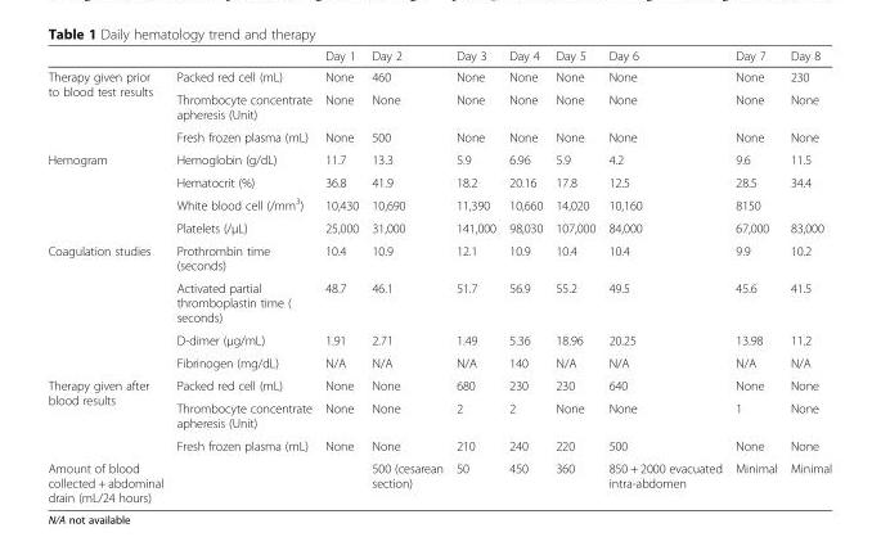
<table><thead><tr><td></td><td></td><td>Day 1</td><td>Day 2</td><td>Day 3</td><td>Day 4</td><td>Day 5</td><td>Day 6</td><td>Day 7</td><td>Day 8</td></tr></thead><tbody><tr><td rowspan="3">Therapy given prior to blood test results</td><td>Packed red cell (mL)</td><td>None</td><td>460</td><td>None</td><td>None</td><td>None</td><td>None</td><td>None</td><td>230</td></tr><tr><td>Thrombocyte concentrate apheresis (Unit)</td><td>None</td><td>None</td><td>None</td><td>None</td><td>None</td><td>None</td><td>None</td><td>None</td></tr><tr><td>Fresh frozen plasma (mL)</td><td>None</td><td>500</td><td>None</td><td>None</td><td>None</td><td>None</td><td>None</td><td>None</td></tr><tr><td rowspan="4">Hemogram</td><td>Hemoglobin (g/dL)</td><td>11.7</td><td>13.3</td><td>5.9</td><td>6.96</td><td>5.9</td><td>4.2</td><td>9.6</td><td>11.5</td></tr><tr><td>Hematocrit (%)</td><td>36.8</td><td>41.9</td><td>18.2</td><td>20.16</td><td>17.8</td><td>12.5</td><td>28.5</td><td>34.4</td></tr><tr><td>White blood cell (/mm<sup>3</sup>)</td><td>10,430</td><td>10,690</td><td>11,390</td><td>10,660</td><td>14,020</td><td>10,160</td><td>8150</td><td></td></tr><tr><td>Platelets (/μL)</td><td>25,000</td><td>31,000</td><td>141,000</td><td>98,030</td><td>107,000</td><td>84,000</td><td>67,000</td><td>83,000</td></tr><tr><td rowspan="4">Coagulation studies</td><td>Prothrombin time (seconds)</td><td>10.4</td><td>10.9</td><td>12.1</td><td>10.9</td><td>10.4</td><td>10.4</td><td>9.9</td><td>10.2</td></tr><tr><td>Activated partial thromboplastin time ( seconds)</td><td>48.7</td><td>46.1</td><td>51.7</td><td>56.9</td><td>55.2</td><td>49.5</td><td>45.6</td><td>41.5</td></tr><tr><td>D-dimer (μg/mL)</td><td>1.91</td><td>2.71</td><td>1.49</td><td>5.36</td><td>18.96</td><td>20.25</td><td>13.98</td><td>11.2</td></tr><tr><td>Fibrinogen (mg/dL)</td><td>N/A</td><td>N/A</td><td>N/A</td><td>140</td><td>N/A</td><td>N/A</td><td>N/A</td><td>N/A</td></tr><tr><td rowspan="3">Therapy given after blood results</td><td>Packed red cell (mL)</td><td>None</td><td>None</td><td>680</td><td>230</td><td>230</td><td>640</td><td>None</td><td>None</td></tr><tr><td>Thrombocyte concentrate apheresis (Unit)</td><td>None</td><td>None</td><td>2</td><td>2</td><td>None</td><td>None</td><td>1</td><td>None</td></tr><tr><td>Fresh frozen plasma (mL)</td><td>None</td><td>None</td><td>210</td><td>240</td><td>220</td><td>500</td><td>None</td><td>None</td></tr><tr><td>Amount of blood collected + abdominal drain (mL/24 hours)</td><td></td><td></td><td>500 (cesarean section)</td><td>50</td><td>450</td><td>360</td><td>850 + 2000 evacuated intra-abdomen</td><td>Minimal</td><td>Minimal</td></tr></tbody></table>